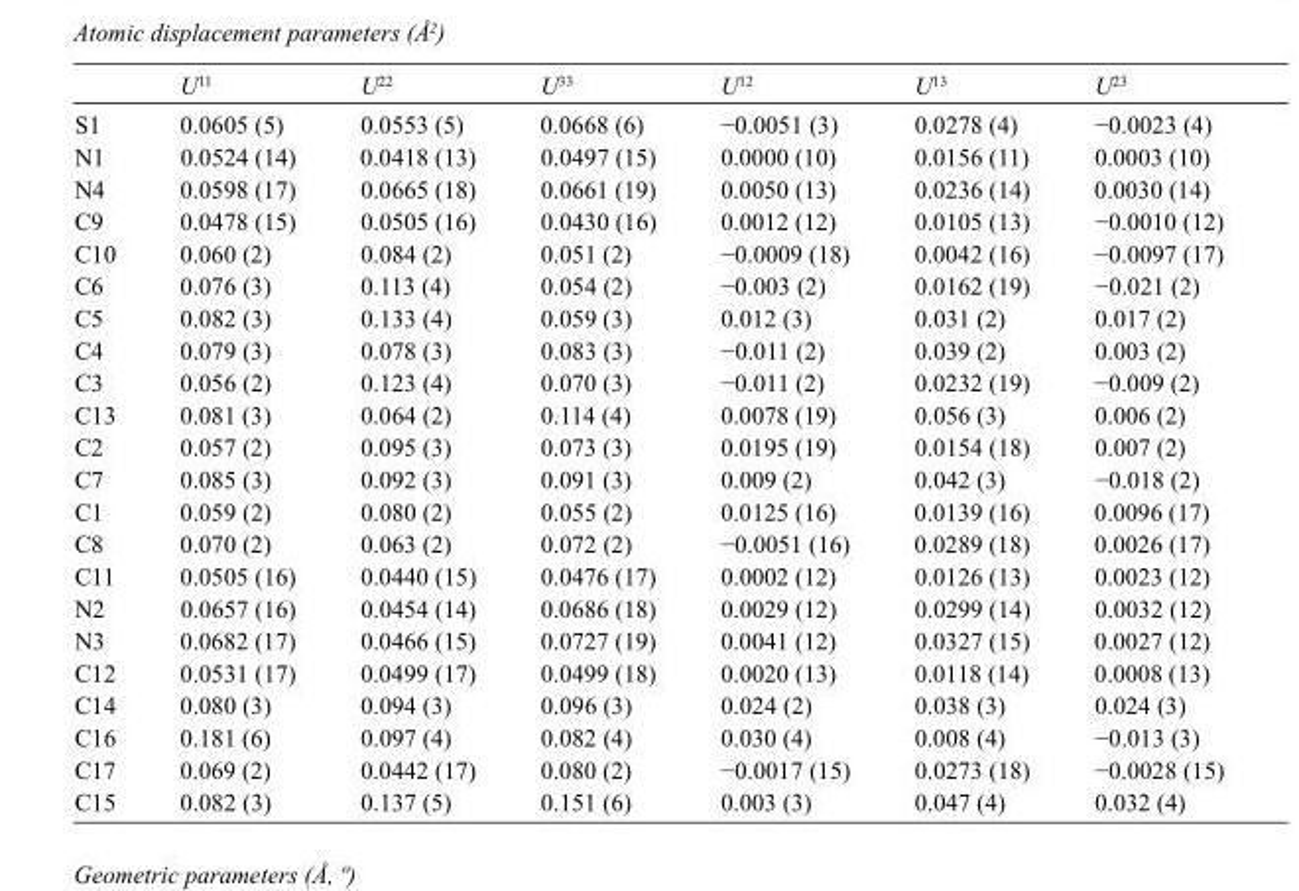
<table><thead><tr><td></td><td>U<sup>11</sup></td><td>U<sup>22</sup></td><td>U<sup>33</sup></td><td>U<sup>12</sup></td><td>U<sup>13</sup></td><td>U<sup>23</sup></td></tr></thead><tbody><tr><td>S1</td><td>0.0605 (5)</td><td>0.0553 (5)</td><td>0.0668 (6)</td><td>−0.0051 (3)</td><td>0.0278 (4)</td><td>−0.0023 (4)</td></tr><tr><td>N1</td><td>0.0524 (14)</td><td>0.0418 (13)</td><td>0.0497 (15)</td><td>0.0000 (10)</td><td>0.0156 (11)</td><td>0.0003 (10)</td></tr><tr><td>N4</td><td>0.0598 (17)</td><td>0.0665 (18)</td><td>0.0661 (19)</td><td>0.0050 (13)</td><td>0.0236 (14)</td><td>0.0030 (14)</td></tr><tr><td>C9</td><td>0.0478 (15)</td><td>0.0505 (16)</td><td>0.0430 (16)</td><td>0.0012 (12)</td><td>0.0105 (13)</td><td>−0.0010 (12)</td></tr><tr><td>C10</td><td>0.060 (2)</td><td>0.084 (2)</td><td>0.051 (2)</td><td>−0.0009 (18)</td><td>0.0042 (16)</td><td>−0.0097 (17)</td></tr><tr><td>C6</td><td>0.076 (3)</td><td>0.113 (4)</td><td>0.054 (2)</td><td>−0.003 (2)</td><td>0.0162 (19)</td><td>−0.021 (2)</td></tr><tr><td>C5</td><td>0.082 (3)</td><td>0.133 (4)</td><td>0.059 (3)</td><td>0.012 (3)</td><td>0.031 (2)</td><td>0.017 (2)</td></tr><tr><td>C4</td><td>0.079 (3)</td><td>0.078 (3)</td><td>0.083 (3)</td><td>−0.011 (2)</td><td>0.039 (2)</td><td>0.003 (2)</td></tr><tr><td>C3</td><td>0.056 (2)</td><td>0.123 (4)</td><td>0.070 (3)</td><td>−0.011 (2)</td><td>0.0232 (19)</td><td>−0.009 (2)</td></tr><tr><td>C13</td><td>0.081 (3)</td><td>0.064 (2)</td><td>0.114 (4)</td><td>0.0078 (19)</td><td>0.056 (3)</td><td>0.006 (2)</td></tr><tr><td>C2</td><td>0.057 (2)</td><td>0.095 (3)</td><td>0.073 (3)</td><td>0.0195 (19)</td><td>0.0154 (18)</td><td>0.007 (2)</td></tr><tr><td>C7</td><td>0.085 (3)</td><td>0.092 (3)</td><td>0.091 (3)</td><td>0.009 (2)</td><td>0.042 (3)</td><td>−0.018 (2)</td></tr><tr><td>C1</td><td>0.059 (2)</td><td>0.080 (2)</td><td>0.055 (2)</td><td>0.0125 (16)</td><td>0.0139 (16)</td><td>0.0096 (17)</td></tr><tr><td>C8</td><td>0.070 (2)</td><td>0.063 (2)</td><td>0.072 (2)</td><td>−0.0051 (16)</td><td>0.0289 (18)</td><td>0.0026 (17)</td></tr><tr><td>C11</td><td>0.0505 (16)</td><td>0.0440 (15)</td><td>0.0476 (17)</td><td>0.0002 (12)</td><td>0.0126 (13)</td><td>0.0023 (12)</td></tr><tr><td>N2</td><td>0.0657 (16)</td><td>0.0454 (14)</td><td>0.0686 (18)</td><td>0.0029 (12)</td><td>0.0299 (14)</td><td>0.0032 (12)</td></tr><tr><td>N3</td><td>0.0682 (17)</td><td>0.0466 (15)</td><td>0.0727 (19)</td><td>0.0041 (12)</td><td>0.0327 (15)</td><td>0.0027 (12)</td></tr><tr><td>C12</td><td>0.0531 (17)</td><td>0.0499 (17)</td><td>0.0499 (18)</td><td>0.0020 (13)</td><td>0.0118 (14)</td><td>0.0008 (13)</td></tr><tr><td>C14</td><td>0.080 (3)</td><td>0.094 (3)</td><td>0.096 (3)</td><td>0.024 (2)</td><td>0.038 (3)</td><td>0.024 (3)</td></tr><tr><td>C16</td><td>0.181 (6)</td><td>0.097 (4)</td><td>0.082 (4)</td><td>0.030 (4)</td><td>0.008 (4)</td><td>−0.013 (3)</td></tr><tr><td>C17</td><td>0.069 (2)</td><td>0.0442 (17)</td><td>0.080 (2)</td><td>−0.0017 (15)</td><td>0.0273 (18)</td><td>−0.0028 (15)</td></tr><tr><td>C15</td><td>0.082 (3)</td><td>0.137 (5)</td><td>0.151 (6)</td><td>0.003 (3)</td><td>0.047 (4)</td><td>0.032 (4)</td></tr></tbody></table>